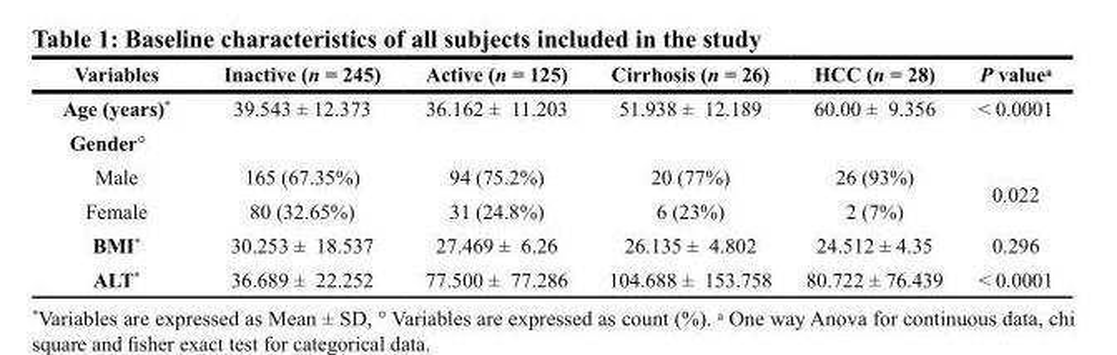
<table><thead><tr><td>Variables</td><td>Inactive (n = 245)</td><td>Active (n = 125)</td><td>Cirrhosis (n = 26)</td><td>HCC (n = 28)</td><td>P value<sup>ᵃ</sup></td></tr></thead><tbody><tr><td>Age (years)*</td><td>39.543 ± 12.373</td><td>36.162 ± 11.203</td><td>51.938 ± 12.189</td><td>60.00 ± 9.356</td><td>&lt; 0.0001</td></tr><tr><td colspan="6">Gender°</td></tr><tr><td>Male</td><td>165 (67.35%)</td><td>94 (75.2%)</td><td>20 (77%)</td><td>26 (93%)</td><td rowspan="2">0.022</td></tr><tr><td>Female</td><td>80 (32.65%)</td><td>31 (24.8%)</td><td>6 (23%)</td><td>2 (7%)</td></tr><tr><td>BMI*</td><td>30.253 ± 18.537</td><td>27.469 ± 6.26</td><td>26.135 ± 4.802</td><td>24.512 ± 4.35</td><td>0.296</td></tr><tr><td>ALT*</td><td>36.689 ± 22.252</td><td>77.500 ± 77.286</td><td>104.688 ± 153.758</td><td>80.722 ± 76.439</td><td>&lt; 0.0001</td></tr></tbody></table>